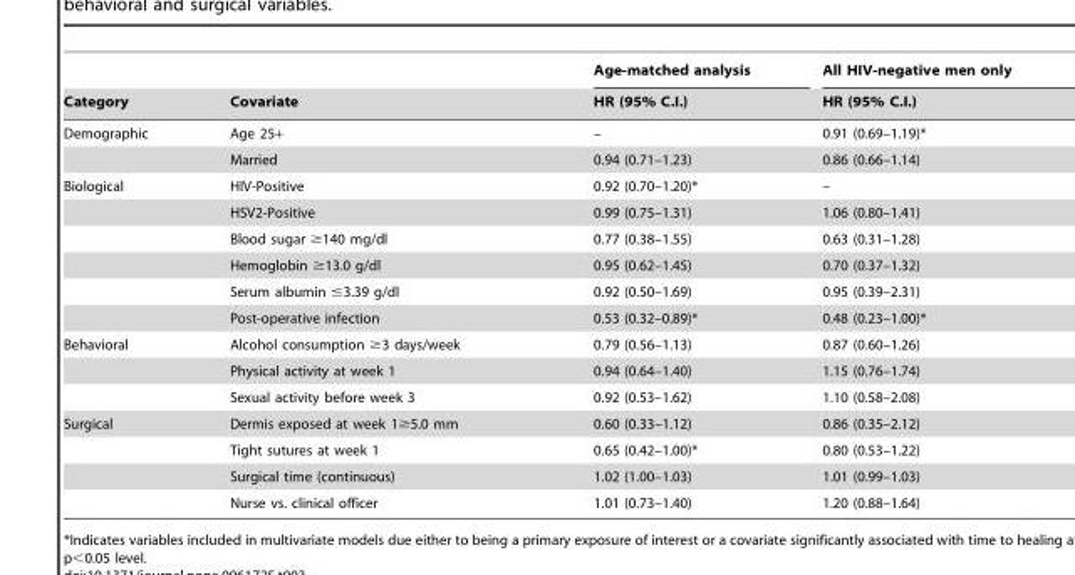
<table><thead><tr><td rowspan="2">Category</td><td rowspan="2">Covariate</td><td rowspan="2">Age-matched analysis HR (95% C.I.)</td><td rowspan="2">All HIV-negative men only HR (95% C.I.)</td></tr><tr></tr></thead><tbody><tr><td rowspan="2">Demographic</td><td>Age 25+</td><td>–</td><td>0.91 (0.69–1.19)*</td></tr><tr><td>Married</td><td>0.94 (0.71–1.23)</td><td>0.86 (0.66–1.14)</td></tr><tr><td rowspan="6">Biological</td><td>HIV-Positive</td><td>0.92 (0.70–1.20)*</td><td>–</td></tr><tr><td>HSV2-Positive</td><td>0.99 (0.75–1.31)</td><td>1.06 (0.80–1.41)</td></tr><tr><td>Blood sugar ≥140 mg/dl</td><td>0.77 (0.38–1.55)</td><td>0.63 (0.31–1.28)</td></tr><tr><td>Hemoglobin ≥13.0 g/dl</td><td>0.95 (0.62–1.45)</td><td>0.70 (0.37–1.32)</td></tr><tr><td>Serum albumin ≤3.39 g/dl</td><td>0.92 (0.50–1.69)</td><td>0.95 (0.39–2.31)</td></tr><tr><td>Post-operative infection</td><td>0.53 (0.32–0.89)*</td><td>0.48 (0.23–1.00)*</td></tr><tr><td rowspan="3">Behavioral</td><td>Alcohol consumption ≥3 days/week</td><td>0.79 (0.56–1.13)</td><td>0.87 (0.60–1.26)</td></tr><tr><td>Physical activity at week 1</td><td>0.94 (0.64–1.40)</td><td>1.15 (0.76–1.74)</td></tr><tr><td>Sexual activity before week 3</td><td>0.92 (0.53–1.62)</td><td>1.10 (0.58–2.08)</td></tr><tr><td rowspan="4">Surgical</td><td>Dermis exposed at week 1≥5.0 mm</td><td>0.60 (0.33–1.12)</td><td>0.86 (0.35–2.12)</td></tr><tr><td>Tight sutures at week 1</td><td>0.65 (0.42–1.00)*</td><td>0.80 (0.53–1.22)</td></tr><tr><td>Surgical time (continuous)</td><td>1.02 (1.00–1.03)</td><td>1.01 (0.99–1.03)</td></tr><tr><td>Nurse vs. clinical officer</td><td>1.01 (0.73–1.40)</td><td>1.20 (0.88–1.64)</td></tr></tbody></table>